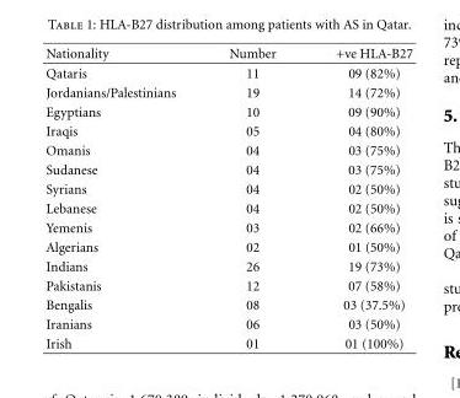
<table><thead><tr><td>Nationality</td><td>Number</td><td>+ve HLA-B27</td></tr></thead><tbody><tr><td>Qataris</td><td>11</td><td>09 (82%)</td></tr><tr><td>Jordanians/Palestinians</td><td>19</td><td>14 (72%)</td></tr><tr><td>Egyptians</td><td>10</td><td>09 (90%)</td></tr><tr><td>Iraqis</td><td>05</td><td>04 (80%)</td></tr><tr><td>Omanis</td><td>04</td><td>03 (75%)</td></tr><tr><td>Sudanese</td><td>04</td><td>03 (75%)</td></tr><tr><td>Syrians</td><td>04</td><td>02 (50%)</td></tr><tr><td>Lebanese</td><td>04</td><td>02 (50%)</td></tr><tr><td>Yemenis</td><td>03</td><td>02 (66%)</td></tr><tr><td>Algerians</td><td>02</td><td>01 (50%)</td></tr><tr><td>Indians</td><td>26</td><td>19 (73%)</td></tr><tr><td>Pakistanis</td><td>12</td><td>07 (58%)</td></tr><tr><td>Bengalis</td><td>08</td><td>03 (37.5%)</td></tr><tr><td>Iranians</td><td>06</td><td>03 (50%)</td></tr><tr><td>Irish</td><td>01</td><td>01 (100%)</td></tr></tbody></table>